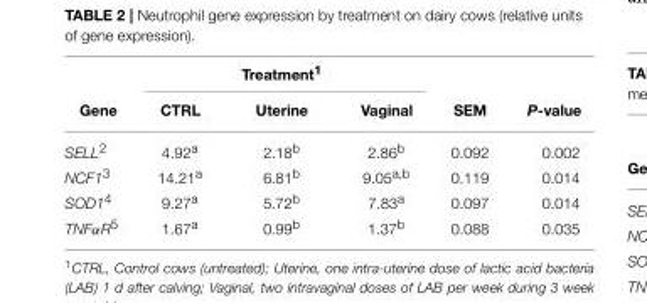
<table><thead><tr><td rowspan="2">Gene</td><td rowspan="2">CTRL</td><td rowspan="2">Treatment<sup>1</sup> Uterine</td><td rowspan="2">Vaginal</td><td rowspan="2">SEM</td><td rowspan="2">P-value</td></tr><tr></tr></thead><tbody><tr><td>SELL<sup>2</sup></td><td>4.92<sup>a</sup></td><td>2.18<sup>b</sup></td><td>2.86<sup>b</sup></td><td>0.092</td><td>0.002</td></tr><tr><td>NCF1<sup>3</sup></td><td>14.21<sup>a</sup></td><td>6.81<sup>b</sup></td><td>9.05<sup>a,b</sup></td><td>0.119</td><td>0.014</td></tr><tr><td>SOD1<sup>4</sup></td><td>9.27<sup>a</sup></td><td>5.72<sup>b</sup></td><td>7.83<sup>a</sup></td><td>0.097</td><td>0.014</td></tr><tr><td>TNFαR<sup>5</sup></td><td>1.67<sup>a</sup></td><td>0.99<sup>b</sup></td><td>1.37<sup>b</sup></td><td>0.088</td><td>0.035</td></tr></tbody></table>